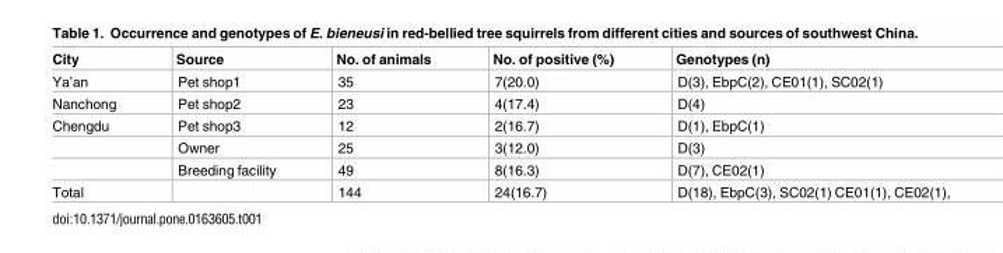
<table><thead><tr><td>City</td><td>Source</td><td>No. of animals</td><td>No. of positive (%)</td><td>Genotypes (n)</td></tr></thead><tbody><tr><td>Ya’an</td><td>Pet shop1</td><td>35</td><td>7(20.0)</td><td>D(3), EbpC(2), CE01(1), SC02(1)</td></tr><tr><td>Nanchong</td><td>Pet shop2</td><td>23</td><td>4(17.4)</td><td>D(4)</td></tr><tr><td rowspan="3">Chengdu</td><td>Pet shop3</td><td>12</td><td>2(16.7)</td><td>D(1), EbpC(1)</td></tr><tr><td>Owner</td><td>25</td><td>3(12.0)</td><td>D(3)</td></tr><tr><td>Breeding facility</td><td>49</td><td>8(16.3)</td><td>D(7), CE02(1)</td></tr><tr><td>Total</td><td></td><td>144</td><td>24(16.7)</td><td>D(18), EbpC(3), SC02(1) CE01(1), CE02(1),</td></tr></tbody></table>